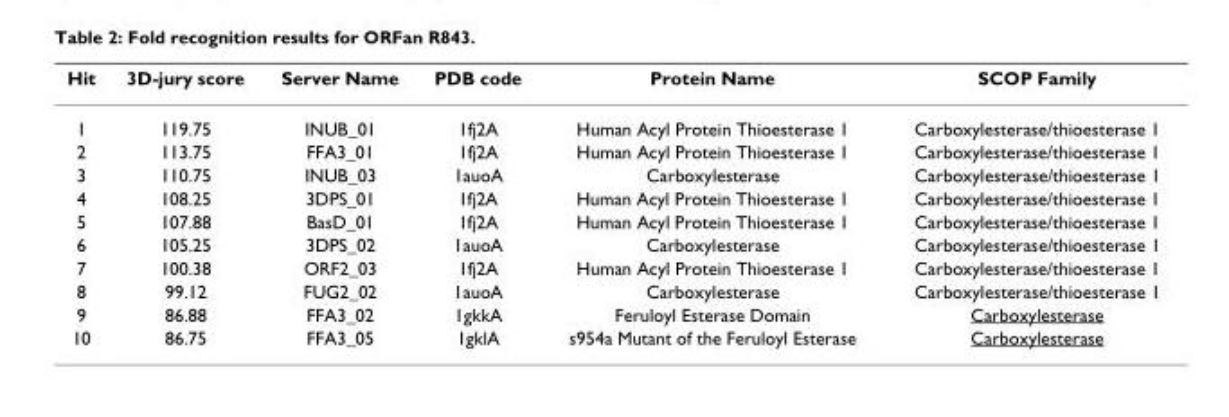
<table><thead><tr><td>Hit</td><td>3D-jury score</td><td>Server Name</td><td>PDB code</td><td>Protein Name</td><td>SCOP Family</td></tr></thead><tbody><tr><td>1</td><td>119.75</td><td>INUB_01</td><td>1fj2A</td><td>Human Acyl Protein Thioesterase 1</td><td>Carboxylesterase/thioesterase 1</td></tr><tr><td>2</td><td>113.75</td><td>FFA3_01</td><td>1fj2A</td><td>Human Acyl Protein Thioesterase 1</td><td>Carboxylesterase/thioesterase 1</td></tr><tr><td>3</td><td>110.75</td><td>INUB_03</td><td>1auoA</td><td>Carboxylesterase</td><td>Carboxylesterase/thioesterase 1</td></tr><tr><td>4</td><td>108.25</td><td>3DPS_01</td><td>1fj2A</td><td>Human Acyl Protein Thioesterase 1</td><td>Carboxylesterase/thioesterase 1</td></tr><tr><td>5</td><td>107.88</td><td>BasD_01</td><td>1fj2A</td><td>Human Acyl Protein Thioesterase 1</td><td>Carboxylesterase/thioesterase 1</td></tr><tr><td>6</td><td>105.25</td><td>3DPS_02</td><td>1auoA</td><td>Carboxylesterase</td><td>Carboxylesterase/thioesterase 1</td></tr><tr><td>7</td><td>100.38</td><td>ORF2_03</td><td>1fj2A</td><td>Human Acyl Protein Thioesterase 1</td><td>Carboxylesterase/thioesterase 1</td></tr><tr><td>8</td><td>99.12</td><td>FUG2_02</td><td>1auoA</td><td>Carboxylesterase</td><td>Carboxylesterase/thioesterase 1</td></tr><tr><td>9</td><td>86.88</td><td>FFA3_02</td><td>1gkkA</td><td>Feruloyl Esterase Domain</td><td>Carboxylesterase</td></tr><tr><td>10</td><td>86.75</td><td>FFA3_05</td><td>1gklA</td><td>s954a Mutant of the Feruloyl Esterase</td><td>Carboxylesterase</td></tr></tbody></table>